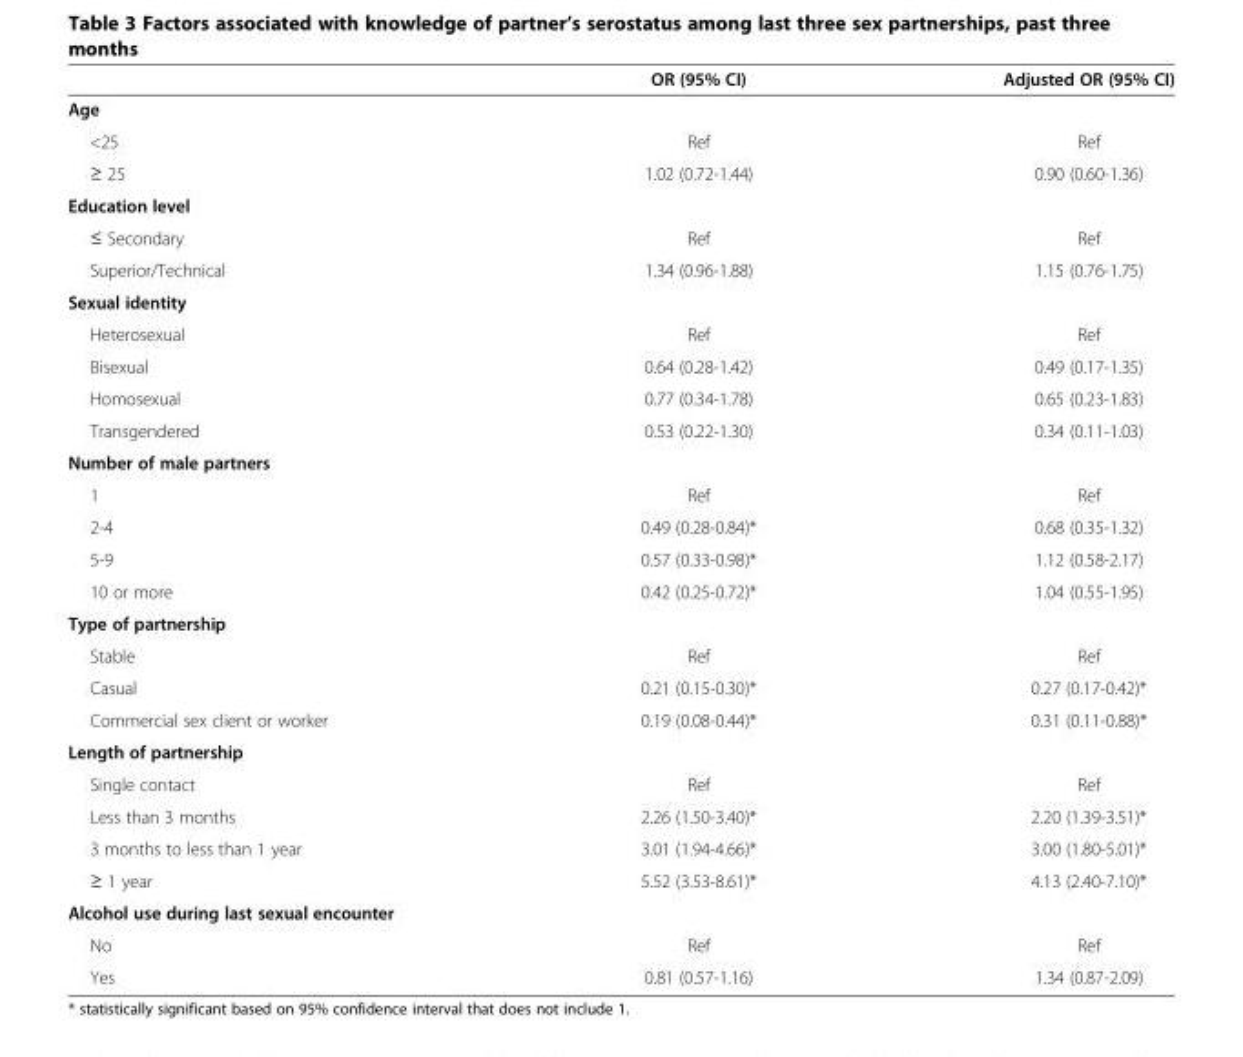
<table><thead><tr><td></td><td>OR (95% CI)</td><td>Adjusted OR (95% CI)</td></tr></thead><tbody><tr><td colspan="3">Age</td></tr><tr><td>&lt;25</td><td>Ref</td><td>Ref</td></tr><tr><td>≥ 25</td><td>1.02 (0.72-1.44)</td><td>0.90 (0.60-1.36)</td></tr><tr><td colspan="3">Education level</td></tr><tr><td>≤ Secondary</td><td>Ref</td><td>Ref</td></tr><tr><td>Superior/Technical</td><td>1.34 (0.96-1.88)</td><td>1.15 (0.76-1.75)</td></tr><tr><td colspan="3">Sexual identity</td></tr><tr><td>Heterosexual</td><td>Ref</td><td>Ref</td></tr><tr><td>Bisexual</td><td>0.64 (0.28-1.42)</td><td>0.49 (0.17-1.35)</td></tr><tr><td>Homosexual</td><td>0.77 (0.34-1.78)</td><td>0.65 (0.23-1.83)</td></tr><tr><td>Transgendered</td><td>0.53 (0.22-1.30)</td><td>0.34 (0.11-1.03)</td></tr><tr><td colspan="3">Number of male partners</td></tr><tr><td>1</td><td>Ref</td><td>Ref</td></tr><tr><td>2-4</td><td>0.49 (0.28-0.84)*</td><td>0.68 (0.35-1.32)</td></tr><tr><td>5-9</td><td>0.57 (0.33-0.98)*</td><td>1.12 (0.58-2.17)</td></tr><tr><td>10 or more</td><td>0.42 (0.25-0.72)*</td><td>1.04 (0.55-1.95)</td></tr><tr><td colspan="3">Type of partnership</td></tr><tr><td>Stable</td><td>Ref</td><td>Ref</td></tr><tr><td>Casual</td><td>0.21 (0.15-0.30)*</td><td>0.27 (0.17-0.42)*</td></tr><tr><td>Commercial sex client or worker</td><td>0.19 (0.08-0.44)*</td><td>0.31 (0.11-0.88)*</td></tr><tr><td colspan="3">Length of partnership</td></tr><tr><td>Single contact</td><td>Ref</td><td>Ref</td></tr><tr><td>Less than 3 months</td><td>2.26 (1.50-3.40)*</td><td>2.20 (1.39-3.51)*</td></tr><tr><td>3 months to less than 1 year</td><td>3.01 (1.94-4.66)*</td><td>3.00 (1.80-5.01)*</td></tr><tr><td>≥ 1 year</td><td>5.52 (3.53-8.61)*</td><td>4.13 (2.40-7.10)*</td></tr><tr><td colspan="3">Alcohol use during last sexual encounter</td></tr><tr><td>No</td><td>Ref</td><td>Ref</td></tr><tr><td>Yes</td><td>0.81 (0.57-1.16)</td><td>1.34 (0.87-2.09)</td></tr></tbody></table>